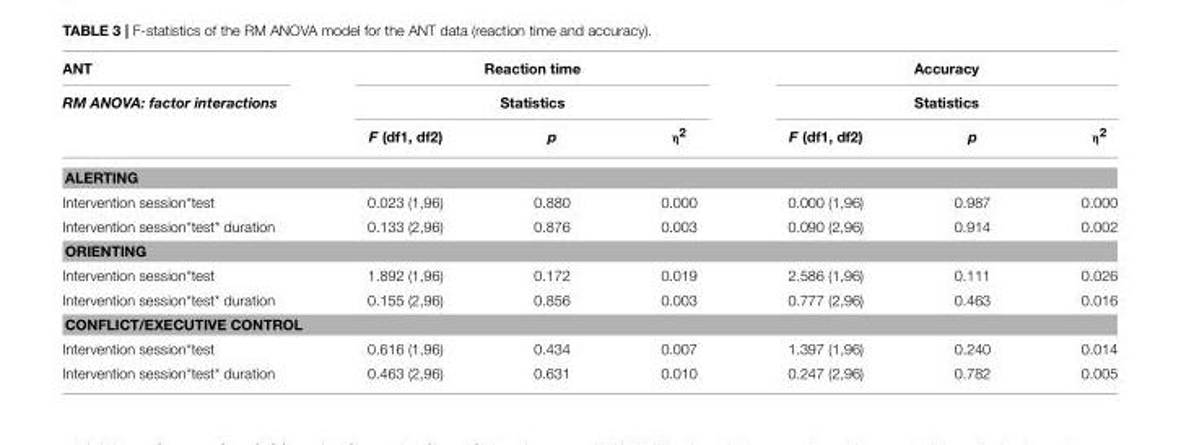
<table><thead><tr><td rowspan="3">ANT RM ANOVA: factor interactions</td><td rowspan="2" colspan="3">Reaction time Statistics</td><td rowspan="2" colspan="3">Accuracy Statistics</td></tr><tr></tr><tr><td>F (df1, df2)</td><td>p</td><td>η<sup>2</sup></td><td>F (df1, df2)</td><td>p</td><td>η<sup>2</sup></td></tr></thead><tbody><tr><td colspan="7">ALERTING</td></tr><tr><td>Intervention session*test</td><td>0.023 (1,96)</td><td>0.880</td><td>0.000</td><td>0.000 (1,96)</td><td>0.987</td><td>0.000</td></tr><tr><td>Intervention session*test* duration</td><td>0.133 (2,96)</td><td>0.876</td><td>0.003</td><td>0.090 (2,96)</td><td>0.914</td><td>0.002</td></tr><tr><td colspan="7">ORIENTING</td></tr><tr><td>Intervention session*test</td><td>1.892 (1,96)</td><td>0.172</td><td>0.019</td><td>2.586 (1,96)</td><td>0.111</td><td>0.026</td></tr><tr><td>Intervention session*test* duration</td><td>0.155 (2,96)</td><td>0.856</td><td>0.003</td><td>0.777 (2,96)</td><td>0.463</td><td>0.016</td></tr><tr><td colspan="7">CONFLICT/EXECUTIVE CONTROL</td></tr><tr><td>Intervention session*test</td><td>0.616 (1,96)</td><td>0.434</td><td>0.007</td><td>1.397 (1,96)</td><td>0.240</td><td>0.014</td></tr><tr><td>Intervention session*test* duration</td><td>0.463 (2,96)</td><td>0.631</td><td>0.010</td><td>0.247 (2,96)</td><td>0.782</td><td>0.005</td></tr></tbody></table>